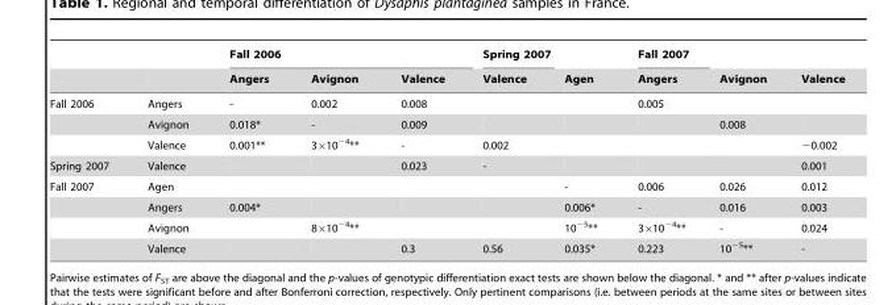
<table><thead><tr><td rowspan="2"></td><td rowspan="2"></td><td colspan="3">Fall 2006</td><td rowspan="2">Spring 2007 Valence</td><td rowspan="2">Agen</td><td rowspan="2">Fall 2007 Angers</td><td rowspan="2">Avignon</td><td rowspan="2">Valence</td></tr><tr><td>Angers</td><td>Avignon</td><td>Valence</td></tr></thead><tbody><tr><td rowspan="3">Fall 2006</td><td>Angers</td><td>-</td><td>0.002</td><td>0.008</td><td></td><td></td><td>0.005</td><td></td><td></td></tr><tr><td>Avignon</td><td>0.018*</td><td>-</td><td>0.009</td><td></td><td></td><td></td><td>0.008</td><td></td></tr><tr><td>Valence</td><td>0.001**</td><td>3×10<sup>−4</sup>**</td><td>-</td><td>0.002</td><td></td><td></td><td></td><td>−0.002</td></tr><tr><td>Spring 2007</td><td>Valence</td><td></td><td></td><td>0.023</td><td>-</td><td></td><td></td><td></td><td>0.001</td></tr><tr><td rowspan="4">Fall 2007</td><td>Agen</td><td></td><td></td><td></td><td></td><td>-</td><td>0.006</td><td>0.026</td><td>0.012</td></tr><tr><td>Angers</td><td>0.004*</td><td></td><td></td><td></td><td>0.006*</td><td>-</td><td>0.016</td><td>0.003</td></tr><tr><td>Avignon</td><td></td><td>8×10<sup>−4</sup>**</td><td></td><td></td><td>10<sup>−5</sup>**</td><td>3×10<sup>−4</sup>**</td><td>-</td><td>0.024</td></tr><tr><td>Valence</td><td></td><td></td><td>0.3</td><td>0.56</td><td>0.035*</td><td>0.223</td><td>10<sup>−5</sup>**</td><td>-</td></tr></tbody></table>